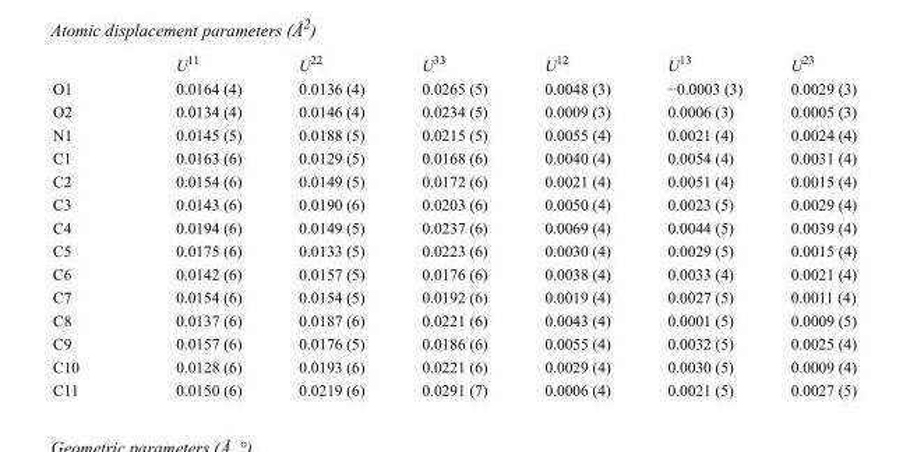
<table><thead><tr><td></td><td>U<sup>11</sup></td><td>U<sup>22</sup></td><td>U<sup>33</sup></td><td>U<sup>12</sup></td><td>U<sup>13</sup></td><td>U<sup>23</sup></td></tr></thead><tbody><tr><td>O1</td><td>0.0164 (4)</td><td>0.0136 (4)</td><td>0.0265 (5)</td><td>0.0048 (3)</td><td>−0.0003 (3)</td><td>0.0029 (3)</td></tr><tr><td>O2</td><td>0.0134 (4)</td><td>0.0146 (4)</td><td>0.0234 (5)</td><td>0.0009 (3)</td><td>0.0006 (3)</td><td>0.0005 (3)</td></tr><tr><td>N1</td><td>0.0145 (5)</td><td>0.0188 (5)</td><td>0.0215 (5)</td><td>0.0055 (4)</td><td>0.0021 (4)</td><td>0.0024 (4)</td></tr><tr><td>C1</td><td>0.0163 (6)</td><td>0.0129 (5)</td><td>0.0168 (6)</td><td>0.0040 (4)</td><td>0.0054 (4)</td><td>0.0031 (4)</td></tr><tr><td>C2</td><td>0.0154 (6)</td><td>0.0149 (5)</td><td>0.0172 (6)</td><td>0.0021 (4)</td><td>0.0051 (4)</td><td>0.0015 (4)</td></tr><tr><td>C3</td><td>0.0143 (6)</td><td>0.0190 (6)</td><td>0.0203 (6)</td><td>0.0050 (4)</td><td>0.0023 (5)</td><td>0.0029 (4)</td></tr><tr><td>C4</td><td>0.0194 (6)</td><td>0.0149 (5)</td><td>0.0237 (6)</td><td>0.0069 (4)</td><td>0.0044 (5)</td><td>0.0039 (4)</td></tr><tr><td>C5</td><td>0.0175 (6)</td><td>0.0133 (5)</td><td>0.0223 (6)</td><td>0.0030 (4)</td><td>0.0029 (5)</td><td>0.0015 (4)</td></tr><tr><td>C6</td><td>0.0142 (6)</td><td>0.0157 (5)</td><td>0.0176 (6)</td><td>0.0038 (4)</td><td>0.0033 (4)</td><td>0.0021 (4)</td></tr><tr><td>C7</td><td>0.0154 (6)</td><td>0.0154 (5)</td><td>0.0192 (6)</td><td>0.0019 (4)</td><td>0.0027 (5)</td><td>0.0011 (4)</td></tr><tr><td>C8</td><td>0.0137 (6)</td><td>0.0187 (6)</td><td>0.0221 (6)</td><td>0.0043 (4)</td><td>0.0001 (5)</td><td>0.0009 (5)</td></tr><tr><td>C9</td><td>0.0157 (6)</td><td>0.0176 (5)</td><td>0.0186 (6)</td><td>0.0055 (4)</td><td>0.0032 (5)</td><td>0.0025 (4)</td></tr><tr><td>C10</td><td>0.0128 (6)</td><td>0.0193 (6)</td><td>0.0221 (6)</td><td>0.0029 (4)</td><td>0.0030 (5)</td><td>0.0009 (4)</td></tr><tr><td>C11</td><td>0.0150 (6)</td><td>0.0219 (6)</td><td>0.0291 (7)</td><td>0.0006 (4)</td><td>0.0021 (5)</td><td>0.0027 (5)</td></tr></tbody></table>